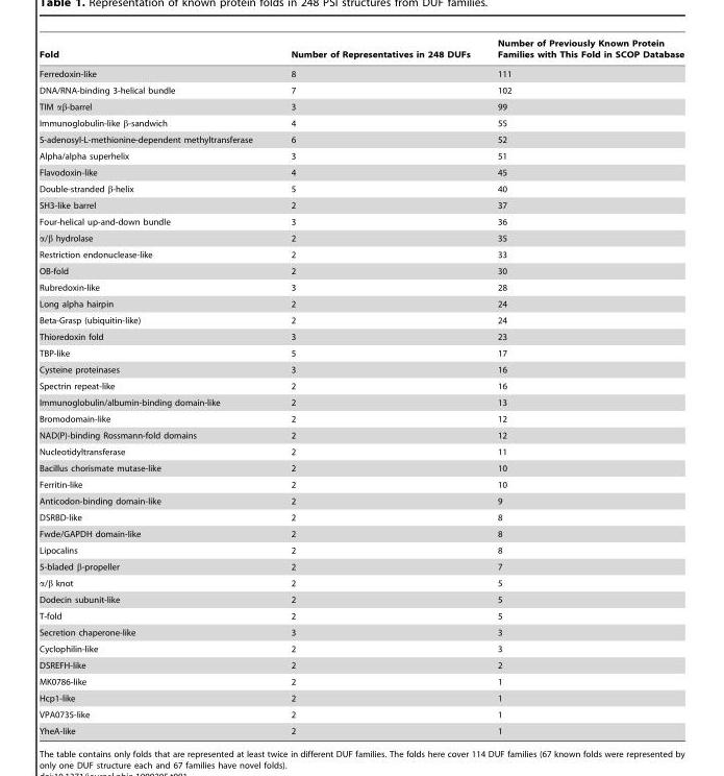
<table><thead><tr><td>Fold</td><td>Number of Representatives in 248 DUFs</td><td>Number of Previously Known Protein Families with This Fold in SCOP Database</td></tr></thead><tbody><tr><td>Ferredoxin-like</td><td>8</td><td>111</td></tr><tr><td>DNA/RNA-binding 3-helical bundle</td><td>7</td><td>102</td></tr><tr><td>TIM αβ-barrel</td><td>3</td><td>99</td></tr><tr><td>Immunoglobulin-like β-sandwich</td><td>4</td><td>55</td></tr><tr><td>S-adenosyl-L-methionine-dependent methyltransferase</td><td>6</td><td>52</td></tr><tr><td>Alpha/alpha superhelix</td><td>3</td><td>51</td></tr><tr><td>Flavodoxin-like</td><td>4</td><td>45</td></tr><tr><td>Double-stranded β-helix</td><td>5</td><td>40</td></tr><tr><td>SH3-like barrel</td><td>2</td><td>37</td></tr><tr><td>Four-helical up-and-down bundle</td><td>3</td><td>36</td></tr><tr><td>α/β hydrolase</td><td>2</td><td>35</td></tr><tr><td>Restriction endonuclease-like</td><td>2</td><td>33</td></tr><tr><td>OB-fold</td><td>2</td><td>30</td></tr><tr><td>Rubredoxin-like</td><td>3</td><td>28</td></tr><tr><td>Long alpha hairpin</td><td>2</td><td>24</td></tr><tr><td>Beta-Grasp (ubiquitin-like)</td><td>2</td><td>24</td></tr><tr><td>Thioredoxin fold</td><td>3</td><td>23</td></tr><tr><td>TBP-like</td><td>5</td><td>17</td></tr><tr><td>Cysteine proteinases</td><td>3</td><td>16</td></tr><tr><td>Spectrin repeat-like</td><td>2</td><td>16</td></tr><tr><td>Immunoglobulin/albumin-binding domain-like</td><td>2</td><td>13</td></tr><tr><td>Bromodomain-like</td><td>2</td><td>12</td></tr><tr><td>NAD(P)-binding Rossmann-fold domains</td><td>2</td><td>12</td></tr><tr><td>Nucleotidyltransferase</td><td>2</td><td>11</td></tr><tr><td>Bacillus chorismate mutase-like</td><td>2</td><td>10</td></tr><tr><td>Ferritin-like</td><td>2</td><td>10</td></tr><tr><td>Anticodon-binding domain-like</td><td>2</td><td>9</td></tr><tr><td>DSRBD-like</td><td>2</td><td>8</td></tr><tr><td>Fwde/GAPDH domain-like</td><td>2</td><td>8</td></tr><tr><td>Lipocalins</td><td>2</td><td>8</td></tr><tr><td>5-bladed β-propeller</td><td>2</td><td>7</td></tr><tr><td>α/β knot</td><td>2</td><td>5</td></tr><tr><td>Dodecin subunit-like</td><td>2</td><td>5</td></tr><tr><td>T-fold</td><td>2</td><td>5</td></tr><tr><td>Secretion chaperone-like</td><td>3</td><td>3</td></tr><tr><td>Cyclophilin-like</td><td>2</td><td>3</td></tr><tr><td>DSREFH-like</td><td>2</td><td>2</td></tr><tr><td>MK0786-like</td><td>2</td><td>1</td></tr><tr><td>Hcp1-like</td><td>2</td><td>1</td></tr><tr><td>VPA0735-like</td><td>2</td><td>1</td></tr><tr><td>YheA-like</td><td>2</td><td>1</td></tr></tbody></table>